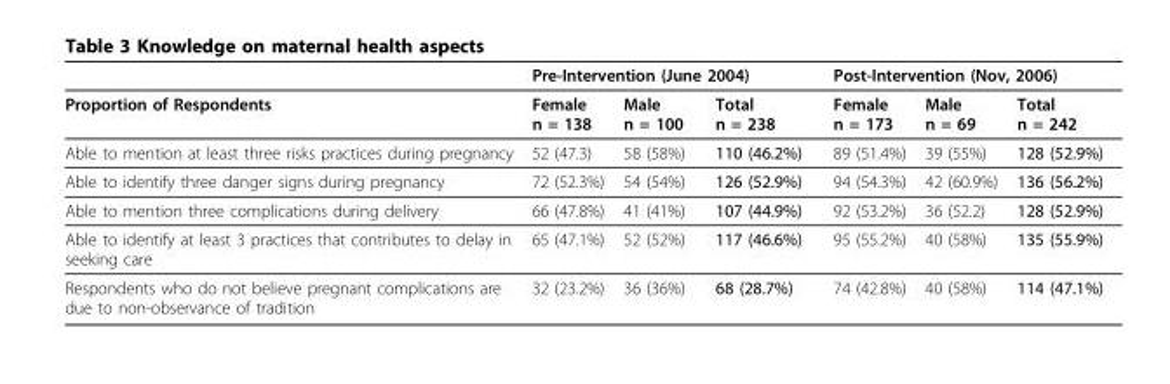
<table><thead><tr><td rowspan="2">Proportion of Respondents</td><td colspan="3">Pre-Intervention (June 2004)</td><td colspan="3">Post-Intervention (Nov, 2006)</td></tr><tr><td>Female n = 138</td><td>Male n = 100</td><td>Total n = 238</td><td>Female n = 173</td><td>Male n = 69</td><td>Total n = 242</td></tr></thead><tbody><tr><td>Able to mention at least three risks practices during pregnancy</td><td>52 (47.3)</td><td>58 (58%)</td><td>110 (46.2%)</td><td>89 (51.4%)</td><td>39 (55%)</td><td>128 (52.9%)</td></tr><tr><td>Able to identify three danger signs during pregnancy</td><td>72 (52.3%)</td><td>54 (54%)</td><td>126 (52.9%)</td><td>94 (54.3%)</td><td>42 (60.9%)</td><td>136 (56.2%)</td></tr><tr><td>Able to mention three complications during delivery</td><td>66 (47.8%)</td><td>41 (41%)</td><td>107 (44.9%)</td><td>92 (53.2%)</td><td>36 (52.2)</td><td>128 (52.9%)</td></tr><tr><td>Able to identify at least 3 practices that contributes to delay in seeking care</td><td>65 (47.1%)</td><td>52 (52%)</td><td>117 (46.6%)</td><td>95 (55.2%)</td><td>40 (58%)</td><td>135 (55.9%)</td></tr><tr><td>Respondents who do not believe pregnant complications are due to non-observance of tradition</td><td>32 (23.2%)</td><td>36 (36%)</td><td>68 (28.7%)</td><td>74 (42.8%)</td><td>40 (58%)</td><td>114 (47.1%)</td></tr></tbody></table>